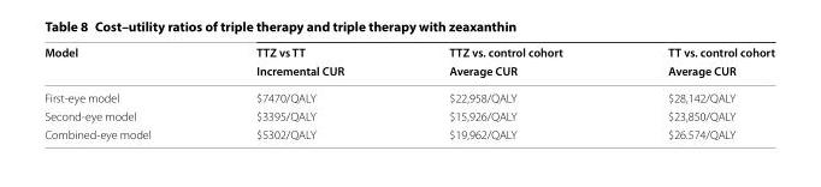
<table><thead><tr><td rowspan="2">Model</td><td rowspan="2">TTZ vs TT Incremental CUR</td><td rowspan="2">TTZ vs. control cohort Average CUR</td><td rowspan="2">TT vs. control cohort Average CUR</td></tr><tr></tr></thead><tbody><tr><td>First-eye model</td><td>$7470/QALY</td><td>$22,958/QALY</td><td>$28,142/QALY</td></tr><tr><td>Second-eye model</td><td>$3395/QALY</td><td>$15,926/QALY</td><td>$23,850/QALY</td></tr><tr><td>Combined-eye model</td><td>$5302/QALY</td><td>$19,962/QALY</td><td>$26.574/QALY</td></tr></tbody></table>